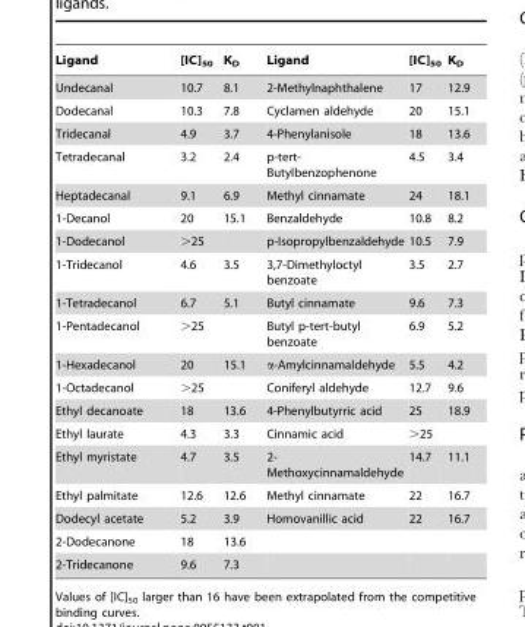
<table><thead><tr><td>Ligand</td><td>[IC]<sub>50</sub></td><td>K<sub>D</sub></td><td>Ligand</td><td>[IC]<sub>50</sub></td><td>K<sub>D</sub></td></tr></thead><tbody><tr><td>Undecanal</td><td>10.7</td><td>8.1</td><td>2-Methylnaphthalene</td><td>17</td><td>12.9</td></tr><tr><td>Dodecanal</td><td>10.3</td><td>7.8</td><td>Cyclamen aldehyde</td><td>20</td><td>15.1</td></tr><tr><td>Tridecanal</td><td>4.9</td><td>3.7</td><td>4-Phenylanisole</td><td>18</td><td>13.6</td></tr><tr><td>Tetradecanal</td><td>3.2</td><td>2.4</td><td>p-tert- Butylbenzophenone</td><td>4.5</td><td>3.4</td></tr><tr><td>Heptadecanal</td><td>9.1</td><td>6.9</td><td>Methyl cinnamate</td><td>24</td><td>18.1</td></tr><tr><td>1-Decanol</td><td>20</td><td>15.1</td><td>Benzaldehyde</td><td>10.8</td><td>8.2</td></tr><tr><td>1-Dodecanol</td><td>&gt;25</td><td></td><td>p-Isopropylbenzaldehyde</td><td>10.5</td><td>7.9</td></tr><tr><td>1-Tridecanol</td><td>4.6</td><td>3.5</td><td>3,7-Dimethyloctyl benzoate</td><td>3.5</td><td>2.7</td></tr><tr><td>1-Tetradecanol</td><td>6.7</td><td>5.1</td><td>Butyl cinnamate</td><td>9.6</td><td>7.3</td></tr><tr><td>1-Pentadecanol</td><td>&gt;25</td><td></td><td>Butyl p-tert-butyl benzoate</td><td>6.9</td><td>5.2</td></tr><tr><td>1-Hexadecanol</td><td>20</td><td>15.1</td><td>α-Amylcinnamaldehyde</td><td>5.5</td><td>4.2</td></tr><tr><td>1-Octadecanol</td><td>&gt;25</td><td></td><td>Coniferyl aldehyde</td><td>12.7</td><td>9.6</td></tr><tr><td>Ethyl decanoate</td><td>18</td><td>13.6</td><td>4-Phenylbutyrric acid</td><td>25</td><td>18.9</td></tr><tr><td>Ethyl laurate</td><td>4.3</td><td>3.3</td><td>Cinnamic acid</td><td>&gt;25</td><td></td></tr><tr><td>Ethyl myristate</td><td>4.7</td><td>3.5</td><td>2- Methoxycinnamaldehyde</td><td>14.7</td><td>11.1</td></tr><tr><td>Ethyl palmitate</td><td>12.6</td><td>12.6</td><td>Methyl cinnamate</td><td>22</td><td>16.7</td></tr><tr><td>Dodecyl acetate</td><td>5.2</td><td>3.9</td><td>Homovanillic acid</td><td>22</td><td>16.7</td></tr><tr><td>2-Dodecanone</td><td>18</td><td>13.6</td><td></td><td></td><td></td></tr><tr><td>2-Tridecanone</td><td>9.6</td><td>7.3</td><td></td><td></td><td></td></tr></tbody></table>